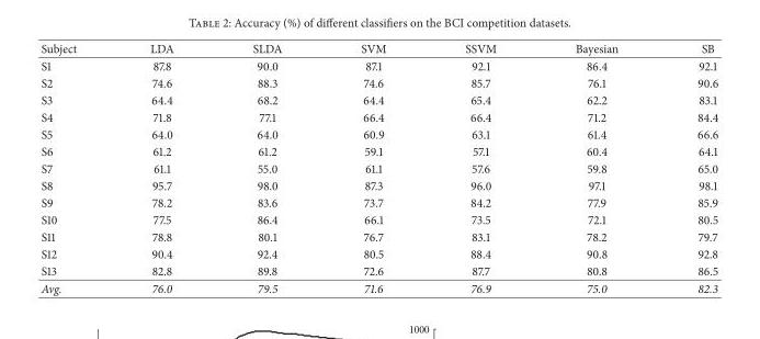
<table><thead><tr><td>Subject</td><td>LDA</td><td>SLDA</td><td>SVM</td><td>SSVM</td><td>Bayesian</td><td>SB</td></tr></thead><tbody><tr><td>S1</td><td>87.8</td><td>90.0</td><td>87.1</td><td>92.1</td><td>86.4</td><td>92.1</td></tr><tr><td>S2</td><td>74.6</td><td>88.3</td><td>74.6</td><td>85.7</td><td>76.1</td><td>90.6</td></tr><tr><td>S3</td><td>64.4</td><td>68.2</td><td>64.4</td><td>65.4</td><td>62.2</td><td>83.1</td></tr><tr><td>S4</td><td>71.8</td><td>77.1</td><td>66.4</td><td>66.4</td><td>71.2</td><td>84.4</td></tr><tr><td>S5</td><td>64.0</td><td>64.0</td><td>60.9</td><td>63.1</td><td>61.4</td><td>66.6</td></tr><tr><td>S6</td><td>61.2</td><td>61.2</td><td>59.1</td><td>57.1</td><td>60.4</td><td>64.1</td></tr><tr><td>S7</td><td>61.1</td><td>55.0</td><td>61.1</td><td>57.6</td><td>59.8</td><td>65.0</td></tr><tr><td>S8</td><td>95.7</td><td>98.0</td><td>87.3</td><td>96.0</td><td>97.1</td><td>98.1</td></tr><tr><td>S9</td><td>78.2</td><td>83.6</td><td>73.7</td><td>84.2</td><td>77.9</td><td>85.9</td></tr><tr><td>S10</td><td>77.5</td><td>86.4</td><td>66.1</td><td>73.5</td><td>72.1</td><td>80.5</td></tr><tr><td>S11</td><td>78.8</td><td>80.1</td><td>76.7</td><td>83.1</td><td>78.2</td><td>79.7</td></tr><tr><td>S12</td><td>90.4</td><td>92.4</td><td>80.5</td><td>88.4</td><td>90.8</td><td>92.8</td></tr><tr><td>S13</td><td>82.8</td><td>89.8</td><td>72.6</td><td>87.7</td><td>80.8</td><td>86.5</td></tr><tr><td>Avg.</td><td>76.0</td><td>79.5</td><td>71.6</td><td>76.9</td><td>75.0</td><td>82.3</td></tr></tbody></table>